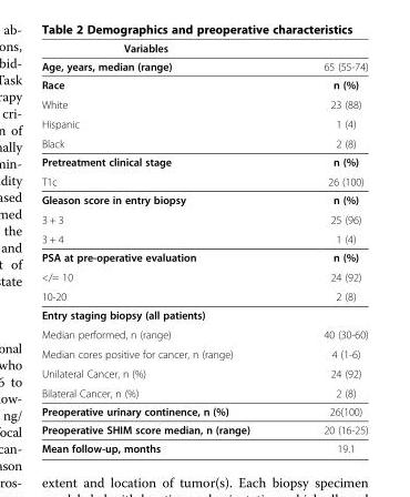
<table><thead><tr><td>Variables</td><td></td></tr></thead><tbody><tr><td>Age, years, median (range)</td><td>65 (55-74)</td></tr><tr><td>Race</td><td>n (%)</td></tr><tr><td>White</td><td>23 (88)</td></tr><tr><td>Hispanic</td><td>1 (4)</td></tr><tr><td>Black</td><td>2 (8)</td></tr><tr><td>Pretreatment clinical stage</td><td>n (%)</td></tr><tr><td>T1c</td><td>26 (100)</td></tr><tr><td>Gleason score in entry biopsy</td><td>n (%)</td></tr><tr><td>3 + 3</td><td>25 (96)</td></tr><tr><td>3 + 4</td><td>1 (4)</td></tr><tr><td>PSA at pre-operative evaluation</td><td>n (%)</td></tr><tr><td>&lt;/= 10</td><td>24 (92)</td></tr><tr><td>10-20</td><td>2 (8)</td></tr><tr><td colspan="2">Entry staging biopsy (all patients)</td></tr><tr><td>Median performed, n (range)</td><td>40 (30-60)</td></tr><tr><td>Median cores positive for cancer, n (range)</td><td>4 (1-6)</td></tr><tr><td>Unilateral Cancer, n (%)</td><td>24 (92)</td></tr><tr><td>Bilateral Cancer, n (%)</td><td>2 (8)</td></tr><tr><td>Preoperative urinary continence, n (%)</td><td>26(100)</td></tr><tr><td>Preoperative SHIM score median, n (range)</td><td>20 (16-25)</td></tr><tr><td>Mean follow-up, months</td><td>19.1</td></tr></tbody></table>